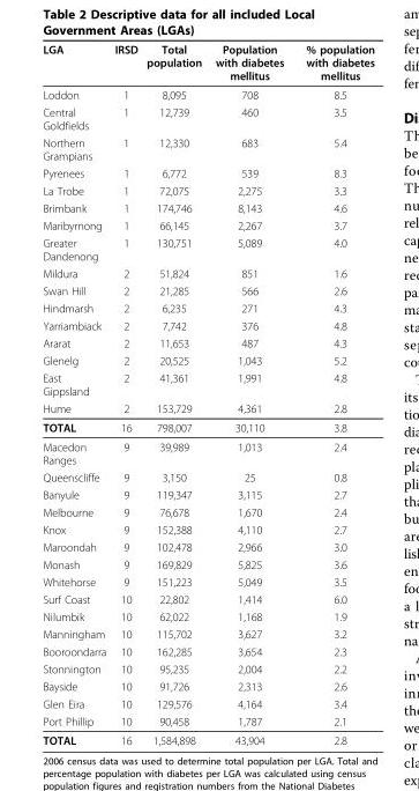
<table><thead><tr><td>LGA</td><td>IRSD</td><td>Total population</td><td>Population with diabetes mellitus</td><td>% population with diabetes mellitus</td></tr></thead><tbody><tr><td>Loddon</td><td>1</td><td>8,095</td><td>708</td><td>8.5</td></tr><tr><td>Central Goldfields</td><td>1</td><td>12,739</td><td>460</td><td>3.5</td></tr><tr><td>Northern Grampians</td><td>1</td><td>12,330</td><td>683</td><td>5.4</td></tr><tr><td>Pyrenees</td><td>1</td><td>6,772</td><td>539</td><td>8.3</td></tr><tr><td>La Trobe</td><td>1</td><td>72,075</td><td>2,275</td><td>3.3</td></tr><tr><td>Brimbank</td><td>1</td><td>174,746</td><td>8,143</td><td>4.6</td></tr><tr><td>Maribyrnong</td><td>1</td><td>66,145</td><td>2,267</td><td>3.7</td></tr><tr><td>Greater Dandenong</td><td>1</td><td>130,751</td><td>5,089</td><td>4.0</td></tr><tr><td>Mildura</td><td>2</td><td>51,824</td><td>851</td><td>1.6</td></tr><tr><td>Swan Hill</td><td>2</td><td>21,285</td><td>566</td><td>2.6</td></tr><tr><td>Hindmarsh</td><td>2</td><td>6,235</td><td>271</td><td>4.3</td></tr><tr><td>Yarriambiack</td><td>2</td><td>7,742</td><td>376</td><td>4.8</td></tr><tr><td>Ararat</td><td>2</td><td>11,653</td><td>487</td><td>4.3</td></tr><tr><td>Glenelg</td><td>2</td><td>20,525</td><td>1,043</td><td>5.2</td></tr><tr><td>East Gippsland</td><td>2</td><td>41,361</td><td>1,991</td><td>4.8</td></tr><tr><td>Hume</td><td>2</td><td>153,729</td><td>4,361</td><td>2.8</td></tr><tr><td>TOTAL</td><td>16</td><td>798,007</td><td>30,110</td><td>3.8</td></tr><tr><td>Macedon Ranges</td><td>9</td><td>39,989</td><td>1,013</td><td>2.4</td></tr><tr><td>Queenscliffe</td><td>9</td><td>3,150</td><td>25</td><td>0.8</td></tr><tr><td>Banyule</td><td>9</td><td>119,347</td><td>3,115</td><td>2.7</td></tr><tr><td>Melbourne</td><td>9</td><td>76,678</td><td>1,670</td><td>2.4</td></tr><tr><td>Knox</td><td>9</td><td>152,388</td><td>4,110</td><td>2.7</td></tr><tr><td>Maroondah</td><td>9</td><td>102,478</td><td>2,966</td><td>3.0</td></tr><tr><td>Monash</td><td>9</td><td>169,829</td><td>5,825</td><td>3.6</td></tr><tr><td>Whitehorse</td><td>9</td><td>151,223</td><td>5,049</td><td>3.5</td></tr><tr><td>Surf Coast</td><td>10</td><td>22,802</td><td>1,414</td><td>6.0</td></tr><tr><td>Nilumbik</td><td>10</td><td>62,022</td><td>1,168</td><td>1.9</td></tr><tr><td>Manningham</td><td>10</td><td>115,702</td><td>3,627</td><td>3.2</td></tr><tr><td>Booroondarra</td><td>10</td><td>162,285</td><td>3,654</td><td>2.3</td></tr><tr><td>Stonnington</td><td>10</td><td>95,235</td><td>2,004</td><td>2.2</td></tr><tr><td>Bayside</td><td>10</td><td>91,726</td><td>2,313</td><td>2.6</td></tr><tr><td>Glen Eira</td><td>10</td><td>129,576</td><td>4,164</td><td>3.4</td></tr><tr><td>Port Phillip</td><td>10</td><td>90,458</td><td>1,787</td><td>2.1</td></tr><tr><td>TOTAL</td><td>16</td><td>1,584,898</td><td>43,904</td><td>2.8</td></tr></tbody></table>